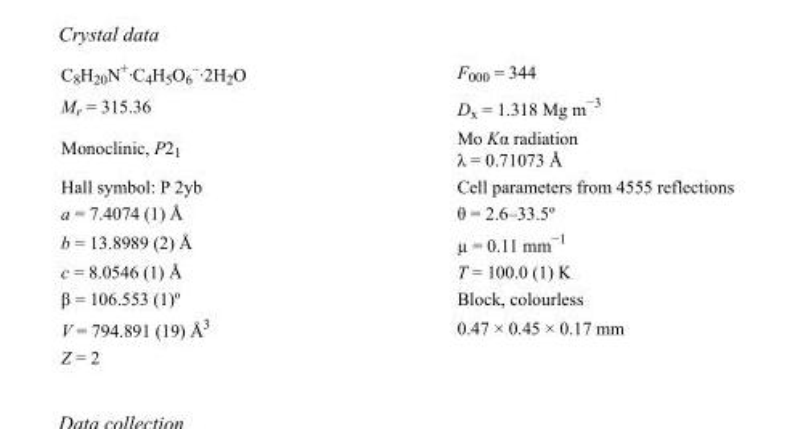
<table><tbody><tr><td>C<sub>8</sub>H<sub>20</sub>N<sup>+</sup>·C<sub>4</sub>H<sub>5</sub>O<sub>6</sub> <sup>–</sup>·2H<sub>2</sub>O</td><td>F<sub>000</sub> = 344</td></tr><tr><td>M<sub>r</sub> = 315.36</td><td>D<sub>x</sub> = 1.318 Mg m<sup>−3</sup></td></tr><tr><td>Monoclinic, P2<sub>1</sub></td><td>Mo Kα radiation λ = 0.71073 Å</td></tr><tr><td>Hall symbol: P 2yb</td><td>Cell parameters from 4555 reflections</td></tr><tr><td>a = 7.4074 (1) Å</td><td>θ = 2.6–33.5º</td></tr><tr><td>b = 13.8989 (2) Å</td><td>µ = 0.11 mm<sup>−1</sup></td></tr><tr><td>c = 8.0546 (1) Å</td><td>T = 100.0 (1) K</td></tr><tr><td>β = 106.553 (1)º</td><td>Block, colourless</td></tr><tr><td>V = 794.891 (19) Å<sup>3</sup></td><td>0.47 × 0.45 × 0.17 mm</td></tr><tr><td>Z = 2</td><td></td></tr></tbody></table>